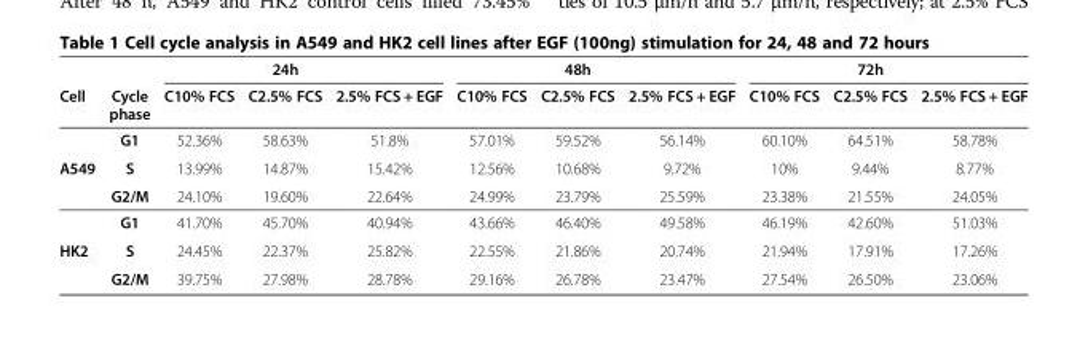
<table><thead><tr><td rowspan="2">Cell</td><td rowspan="2">Cycle phase</td><td rowspan="2">C10% FCS</td><td rowspan="2">24h C2.5% FCS</td><td rowspan="2">2.5% FCS + EGF</td><td rowspan="2">C10% FCS</td><td rowspan="2">48h C2.5% FCS</td><td rowspan="2">2.5% FCS + EGF</td><td rowspan="2">C10% FCS</td><td rowspan="2">72h C2.5% FCS</td><td rowspan="2">2.5% FCS + EGF</td></tr><tr></tr></thead><tbody><tr><td></td><td>G1</td><td>52.36%</td><td>58.63%</td><td>51.8%</td><td>57.01%</td><td>59.52%</td><td>56.14%</td><td>60.10%</td><td>64.51%</td><td>58.78%</td></tr><tr><td rowspan="3">A549</td><td>S</td><td>13.99%</td><td>14.87%</td><td>15.42%</td><td>12.56%</td><td>10.68%</td><td>9.72%</td><td>10%</td><td>9.44%</td><td>8.77%</td></tr><tr><td>G2/M</td><td>24.10%</td><td>19.60%</td><td>22.64%</td><td>24.99%</td><td>23.79%</td><td>25.59%</td><td>23.38%</td><td>21.55%</td><td>24.05%</td></tr><tr><td>G1</td><td>41.70%</td><td>45.70%</td><td>40.94%</td><td>43.66%</td><td>46.40%</td><td>49.58%</td><td>46.19%</td><td>42.60%</td><td>51.03%</td></tr><tr><td rowspan="2">HK2</td><td>S</td><td>24.45%</td><td>22.37%</td><td>25.82%</td><td>22.55%</td><td>21.86%</td><td>20.74%</td><td>21.94%</td><td>17.91%</td><td>17.26%</td></tr><tr><td>G2/M</td><td>39.75%</td><td>27.98%</td><td>28.78%</td><td>29.16%</td><td>26.78%</td><td>23.47%</td><td>27.54%</td><td>26.50%</td><td>23.06%</td></tr></tbody></table>